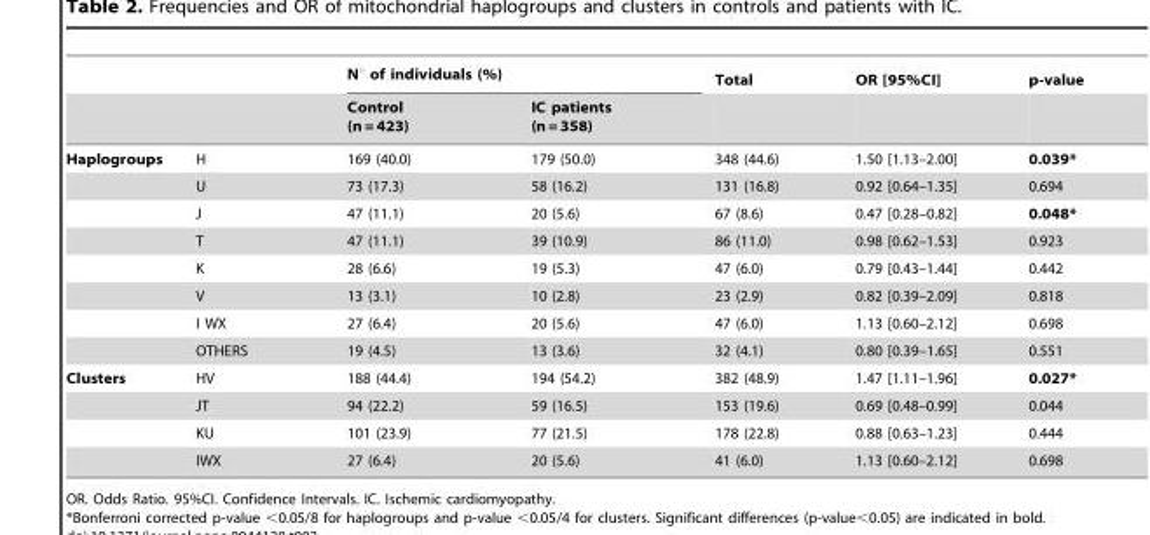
<table><thead><tr><td rowspan="2"></td><td rowspan="2"></td><td colspan="2">N° of individuals (%)</td><td rowspan="2">Total</td><td rowspan="2">OR [95%CI]</td><td rowspan="2">p-value</td></tr><tr><td>Control (n = 423)</td><td>IC patients (n = 358)</td></tr></thead><tbody><tr><td rowspan="8">Haplogroups</td><td>H</td><td>169 (40.0)</td><td>179 (50.0)</td><td>348 (44.6)</td><td>1.50 [1.13–2.00]</td><td>0.039*</td></tr><tr><td>U</td><td>73 (17.3)</td><td>58 (16.2)</td><td>131 (16.8)</td><td>0.92 [0.64–1.35]</td><td>0.694</td></tr><tr><td>J</td><td>47 (11.1)</td><td>20 (5.6)</td><td>67 (8.6)</td><td>0.47 [0.28–0.82]</td><td>0.048*</td></tr><tr><td>T</td><td>47 (11.1)</td><td>39 (10.9)</td><td>86 (11.0)</td><td>0.98 [0.62–1.53]</td><td>0.923</td></tr><tr><td>K</td><td>28 (6.6)</td><td>19 (5.3)</td><td>47 (6.0)</td><td>0.79 [0.43–1.44]</td><td>0.442</td></tr><tr><td>V</td><td>13 (3.1)</td><td>10 (2.8)</td><td>23 (2.9)</td><td>0.82 [0.39–2.09]</td><td>0.818</td></tr><tr><td>I WX</td><td>27 (6.4)</td><td>20 (5.6)</td><td>47 (6.0)</td><td>1.13 [0.60–2.12]</td><td>0.698</td></tr><tr><td>OTHERS</td><td>19 (4.5)</td><td>13 (3.6)</td><td>32 (4.1)</td><td>0.80 [0.39–1.65]</td><td>0.551</td></tr><tr><td rowspan="4">Clusters</td><td>HV</td><td>188 (44.4)</td><td>194 (54.2)</td><td>382 (48.9)</td><td>1.47 [1.11–1.96]</td><td>0.027*</td></tr><tr><td>JT</td><td>94 (22.2)</td><td>59 (16.5)</td><td>153 (19.6)</td><td>0.69 [0.48–0.99]</td><td>0.044</td></tr><tr><td>KU</td><td>101 (23.9)</td><td>77 (21.5)</td><td>178 (22.8)</td><td>0.88 [0.63–1.23]</td><td>0.444</td></tr><tr><td>IWX</td><td>27 (6.4)</td><td>20 (5.6)</td><td>41 (6.0)</td><td>1.13 [0.60–2.12]</td><td>0.698</td></tr></tbody></table>